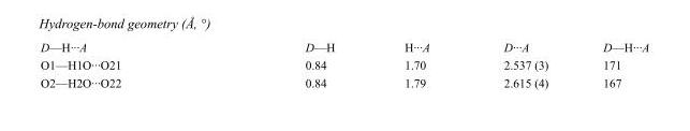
<table><tbody><tr><td>D—H···A</td><td>D—H</td><td>H···A</td><td>D···A</td><td>D—H···A</td></tr><tr><td>O1—H1O···O21</td><td>0.84</td><td>1.70</td><td>2.537 (3)</td><td>171</td></tr><tr><td>O2—H2O···O22</td><td>0.84</td><td>1.79</td><td>2.615 (4)</td><td>167</td></tr></tbody></table>